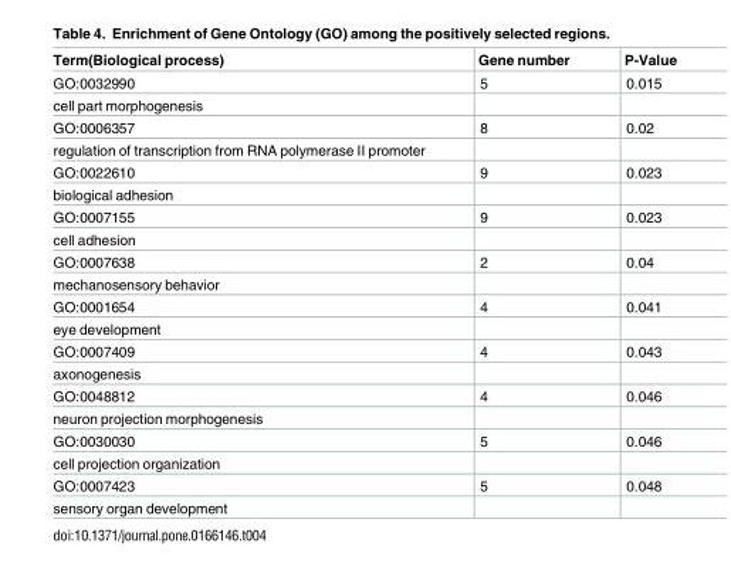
<table><thead><tr><td>Term(Biological process)</td><td>Gene number</td><td>P-Value</td></tr></thead><tbody><tr><td>GO:0032990</td><td>5</td><td>0.015</td></tr><tr><td colspan="3">cell part morphogenesis</td></tr><tr><td>GO:0006357</td><td>8</td><td>0.02</td></tr><tr><td colspan="3">regulation of transcription from RNA polymerase II promoter</td></tr><tr><td>GO:0022610</td><td>9</td><td>0.023</td></tr><tr><td colspan="3">biological adhesion</td></tr><tr><td>GO:0007155</td><td>9</td><td>0.023</td></tr><tr><td colspan="3">cell adhesion</td></tr><tr><td>GO:0007638</td><td>2</td><td>0.04</td></tr><tr><td colspan="3">mechanosensory behavior</td></tr><tr><td>GO:0001654</td><td>4</td><td>0.041</td></tr><tr><td colspan="3">eye development</td></tr><tr><td>GO:0007409</td><td>4</td><td>0.043</td></tr><tr><td colspan="3">axonogenesis</td></tr><tr><td>GO:0048812</td><td>4</td><td>0.046</td></tr><tr><td colspan="3">neuron projection morphogenesis</td></tr><tr><td>GO:0030030</td><td>5</td><td>0.046</td></tr><tr><td colspan="3">cell projection organization</td></tr><tr><td>GO:0007423</td><td>5</td><td>0.048</td></tr><tr><td>sensory organ development</td><td></td><td></td></tr></tbody></table>